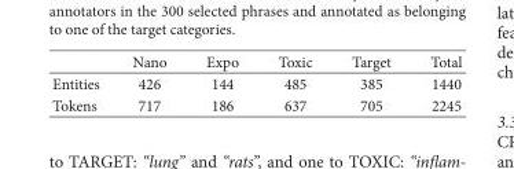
<table><thead><tr><td></td><td>Nano</td><td>Expo</td><td>Toxic</td><td>Target</td><td>Total</td></tr></thead><tbody><tr><td>Entities</td><td>426</td><td>144</td><td>485</td><td>385</td><td>1440</td></tr><tr><td>Tokens</td><td>717</td><td>186</td><td>637</td><td>705</td><td>2245</td></tr></tbody></table>